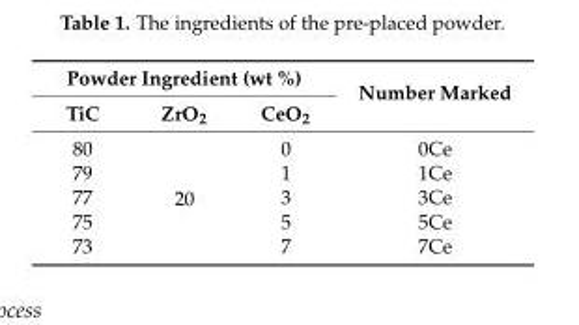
<table><thead><tr><td colspan="3">Powder Ingredient (wt %)</td><td rowspan="2">Number Marked</td></tr><tr><td>TiC</td><td>ZrO<sub>2</sub></td><td>CeO<sub>2</sub></td></tr></thead><tbody><tr><td>80</td><td rowspan="5">20</td><td>0</td><td>0Ce</td></tr><tr><td>79</td><td>1</td><td>1Ce</td></tr><tr><td>77</td><td>3</td><td>3Ce</td></tr><tr><td>75</td><td>5</td><td>5Ce</td></tr><tr><td>73</td><td>7</td><td>7Ce</td></tr></tbody></table>